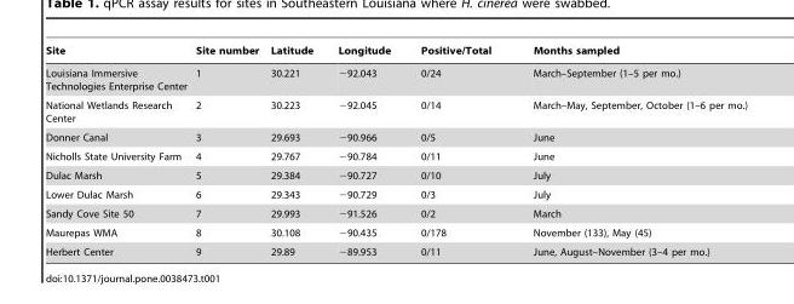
<table><thead><tr><td>Site</td><td>Site number</td><td>Latitude</td><td>Longitude</td><td>Positive/Total</td><td>Months sampled</td></tr></thead><tbody><tr><td>Louisiana Immersive Technologies Enterprise Center</td><td>1</td><td>30.221</td><td>−92.043</td><td>0/24</td><td>March–September (1–5 per mo.)</td></tr><tr><td>National Wetlands Research Center</td><td>2</td><td>30.223</td><td>−92.045</td><td>0/14</td><td>March–May, September, October (1–6 per mo.)</td></tr><tr><td>Donner Canal</td><td>3</td><td>29.693</td><td>−90.966</td><td>0/5</td><td>June</td></tr><tr><td>Nicholls State University Farm</td><td>4</td><td>29.767</td><td>−90.784</td><td>0/11</td><td>June</td></tr><tr><td>Dulac Marsh</td><td>5</td><td>29.384</td><td>−90.727</td><td>0/10</td><td>July</td></tr><tr><td>Lower Dulac Marsh</td><td>6</td><td>29.343</td><td>−90.729</td><td>0/3</td><td>July</td></tr><tr><td>Sandy Cove Site 50</td><td>7</td><td>29.993</td><td>−91.526</td><td>0/2</td><td>March</td></tr><tr><td>Maurepas WMA</td><td>8</td><td>30.108</td><td>−90.435</td><td>0/178</td><td>November (133), May (45)</td></tr><tr><td>Herbert Center</td><td>9</td><td>29.89</td><td>−89.953</td><td>0/11</td><td>June, August–November (3–4 per mo.)</td></tr></tbody></table>